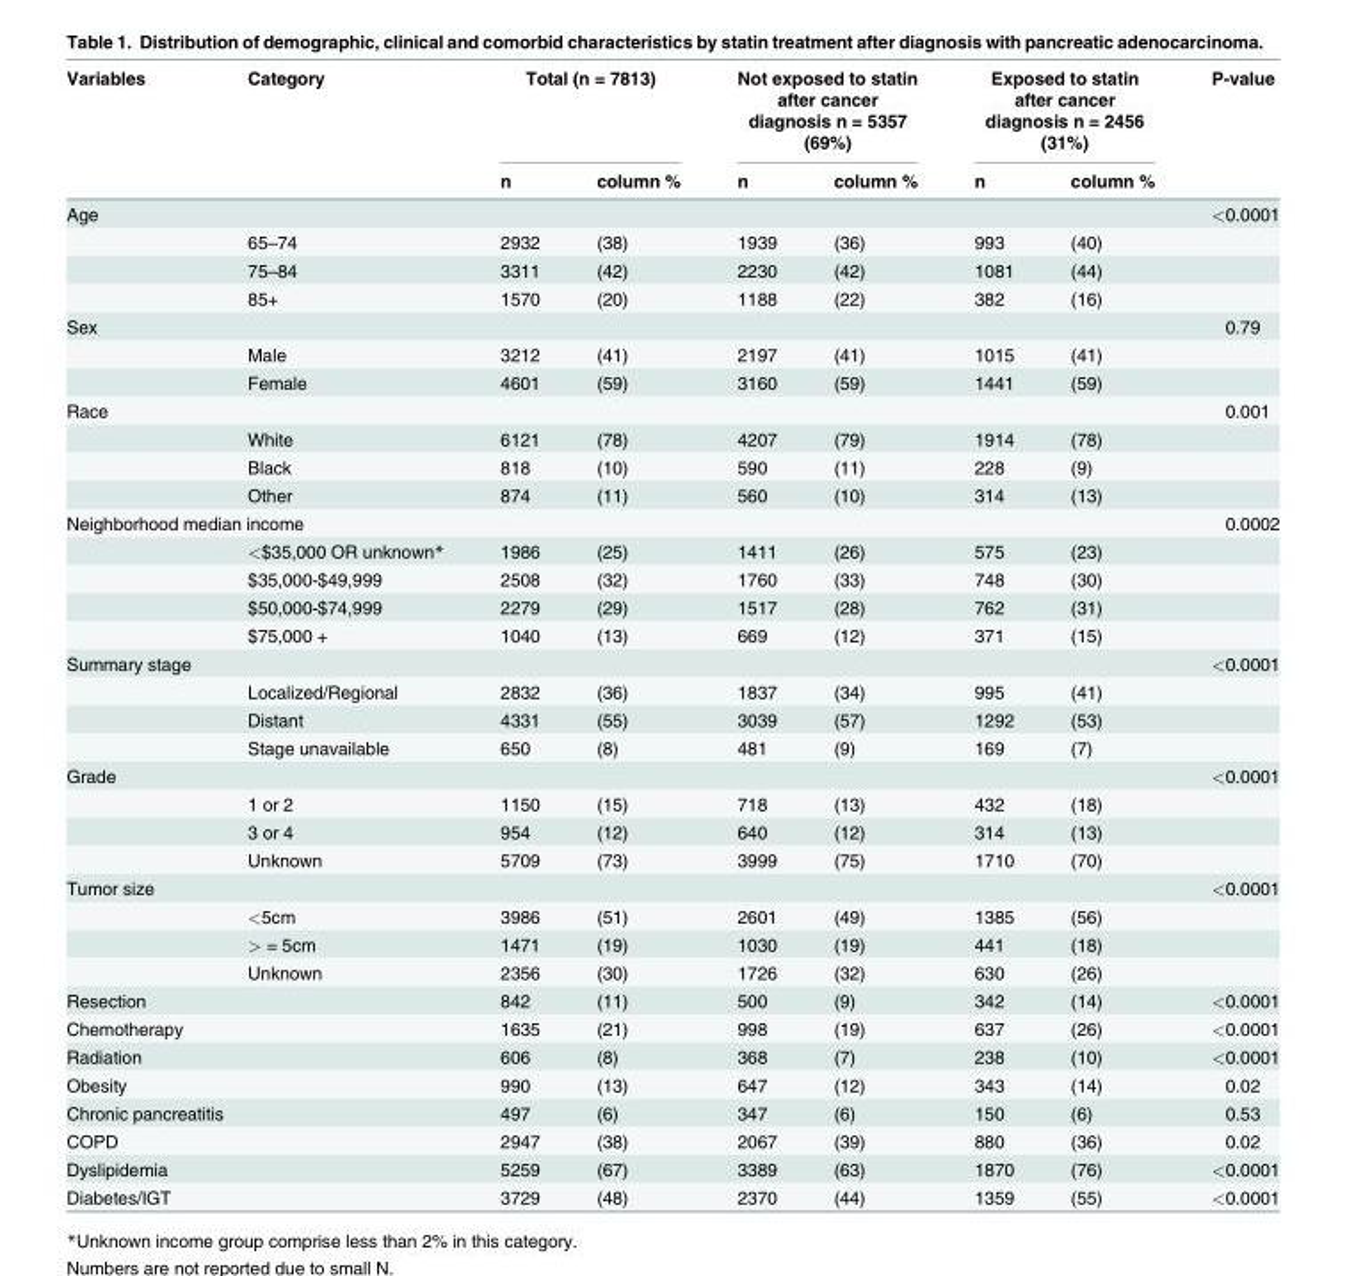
<table><thead><tr><td rowspan="2">Variables</td><td rowspan="2">Category</td><td colspan="2">Total (n = 7813)</td><td colspan="2">Not exposed to statin after cancer diagnosis n = 5357 (69%)</td><td colspan="2">Exposed to statin after cancer diagnosis n = 2456 (31%)</td><td rowspan="2">P-value</td></tr><tr><td>n</td><td>column %</td><td>n</td><td>column %</td><td>n</td><td>column %</td></tr></thead><tbody><tr><td rowspan="4">Age</td><td></td><td></td><td></td><td></td><td></td><td></td><td></td><td>&lt;0.0001</td></tr><tr><td>65–74</td><td>2932</td><td>(38)</td><td>1939</td><td>(36)</td><td>993</td><td>(40)</td><td></td></tr><tr><td>75–84</td><td>3311</td><td>(42)</td><td>2230</td><td>(42)</td><td>1081</td><td>(44)</td><td></td></tr><tr><td>85+</td><td>1570</td><td>(20)</td><td>1188</td><td>(22)</td><td>382</td><td>(16)</td><td></td></tr><tr><td rowspan="3">Sex</td><td></td><td></td><td></td><td></td><td></td><td></td><td></td><td>0.79</td></tr><tr><td>Male</td><td>3212</td><td>(41)</td><td>2197</td><td>(41)</td><td>1015</td><td>(41)</td><td></td></tr><tr><td>Female</td><td>4601</td><td>(59)</td><td>3160</td><td>(59)</td><td>1441</td><td>(59)</td><td></td></tr><tr><td rowspan="4">Race</td><td></td><td></td><td></td><td></td><td></td><td></td><td></td><td>0.001</td></tr><tr><td>White</td><td>6121</td><td>(78)</td><td>4207</td><td>(79)</td><td>1914</td><td>(78)</td><td></td></tr><tr><td>Black</td><td>818</td><td>(10)</td><td>590</td><td>(11)</td><td>228</td><td>(9)</td><td></td></tr><tr><td>Other</td><td>874</td><td>(11)</td><td>560</td><td>(10)</td><td>314</td><td>(13)</td><td></td></tr><tr><td colspan="2">Neighborhood median income</td><td></td><td></td><td></td><td></td><td></td><td></td><td>0.0002</td></tr><tr><td></td><td>&lt;$35,000 OR unknown*</td><td>1986</td><td>(25)</td><td>1411</td><td>(26)</td><td>575</td><td>(23)</td><td></td></tr><tr><td></td><td>$35,000-$49,999</td><td>2508</td><td>(32)</td><td>1760</td><td>(33)</td><td>748</td><td>(30)</td><td></td></tr><tr><td></td><td>$50,000-$74,999</td><td>2279</td><td>(29)</td><td>1517</td><td>(28)</td><td>762</td><td>(31)</td><td></td></tr><tr><td></td><td>$75,000 +</td><td>1040</td><td>(13)</td><td>669</td><td>(12)</td><td>371</td><td>(15)</td><td></td></tr><tr><td rowspan="4">Summary stage</td><td></td><td></td><td></td><td></td><td></td><td></td><td></td><td>&lt;0.0001</td></tr><tr><td>Localized/Regional</td><td>2832</td><td>(36)</td><td>1837</td><td>(34)</td><td>995</td><td>(41)</td><td></td></tr><tr><td>Distant</td><td>4331</td><td>(55)</td><td>3039</td><td>(57)</td><td>1292</td><td>(53)</td><td></td></tr><tr><td>Stage unavailable</td><td>650</td><td>(8)</td><td>481</td><td>(9)</td><td>169</td><td>(7)</td><td></td></tr><tr><td rowspan="4">Grade</td><td></td><td></td><td></td><td></td><td></td><td></td><td></td><td>&lt;0.0001</td></tr><tr><td>1 or 2</td><td>1150</td><td>(15)</td><td>718</td><td>(13)</td><td>432</td><td>(18)</td><td></td></tr><tr><td>3 or 4</td><td>954</td><td>(12)</td><td>640</td><td>(12)</td><td>314</td><td>(13)</td><td></td></tr><tr><td>Unknown</td><td>5709</td><td>(73)</td><td>3999</td><td>(75)</td><td>1710</td><td>(70)</td><td></td></tr><tr><td rowspan="4">Tumor size</td><td></td><td></td><td></td><td></td><td></td><td></td><td></td><td>&lt;0.0001</td></tr><tr><td>&lt;5cm</td><td>3986</td><td>(51)</td><td>2601</td><td>(49)</td><td>1385</td><td>(56)</td><td></td></tr><tr><td>&gt; = 5cm</td><td>1471</td><td>(19)</td><td>1030</td><td>(19)</td><td>441</td><td>(18)</td><td></td></tr><tr><td>Unknown</td><td>2356</td><td>(30)</td><td>1726</td><td>(32)</td><td>630</td><td>(26)</td><td></td></tr><tr><td>Resection</td><td></td><td>842</td><td>(11)</td><td>500</td><td>(9)</td><td>342</td><td>(14)</td><td>&lt;0.0001</td></tr><tr><td>Chemotherapy</td><td></td><td>1635</td><td>(21)</td><td>998</td><td>(19)</td><td>637</td><td>(26)</td><td>&lt;0.0001</td></tr><tr><td>Radiation</td><td></td><td>606</td><td>(8)</td><td>368</td><td>(7)</td><td>238</td><td>(10)</td><td>&lt;0.0001</td></tr><tr><td>Obesity</td><td></td><td>990</td><td>(13)</td><td>647</td><td>(12)</td><td>343</td><td>(14)</td><td>0.02</td></tr><tr><td colspan="2">Chronic pancreatitis</td><td>497</td><td>(6)</td><td>347</td><td>(6)</td><td>150</td><td>(6)</td><td>0.53</td></tr><tr><td>COPD</td><td></td><td>2947</td><td>(38)</td><td>2067</td><td>(39)</td><td>880</td><td>(36)</td><td>0.02</td></tr><tr><td>Dyslipidemia</td><td></td><td>5259</td><td>(67)</td><td>3389</td><td>(63)</td><td>1870</td><td>(76)</td><td>&lt;0.0001</td></tr><tr><td>Diabetes/IGT</td><td></td><td>3729</td><td>(48)</td><td>2370</td><td>(44)</td><td>1359</td><td>(55)</td><td>&lt;0.0001</td></tr></tbody></table>